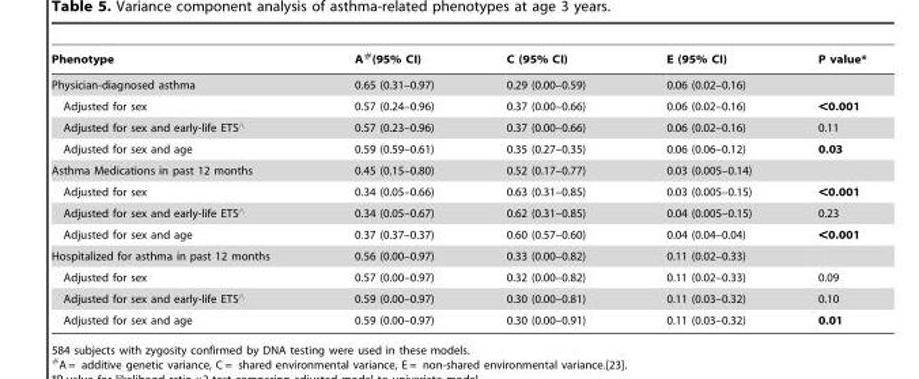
<table><thead><tr><td>Phenotype</td><td>A#(95% CI)</td><td>C (95% CI)</td><td>E (95% CI)</td><td>P value*</td></tr></thead><tbody><tr><td>Physician-diagnosed asthma</td><td>0.65 (0.31–0.97)</td><td>0.29 (0.00–0.59)</td><td>0.06 (0.02–0.16)</td><td></td></tr><tr><td>Adjusted for sex</td><td>0.57 (0.24–0.96)</td><td>0.37 (0.00–0.66)</td><td>0.06 (0.02–0.16)</td><td>&lt;0.001</td></tr><tr><td>Adjusted for sex and early-life ETS‘</td><td>0.57 (0.23–0.96)</td><td>0.37 (0.00–0.66)</td><td>0.06 (0.02–0.16)</td><td>0.11</td></tr><tr><td>Adjusted for sex and age</td><td>0.59 (0.59–0.61)</td><td>0.35 (0.27–0.35)</td><td>0.06 (0.06–0.12)</td><td>0.03</td></tr><tr><td>Asthma Medications in past 12 months</td><td>0.45 (0.15–0.80)</td><td>0.52 (0.17–0.77)</td><td>0.03 (0.005–0.14)</td><td></td></tr><tr><td>Adjusted for sex</td><td>0.34 (0.05–0.66)</td><td>0.63 (0.31–0.85)</td><td>0.03 (0.005–0.15)</td><td>&lt;0.001</td></tr><tr><td>Adjusted for sex and early-life ETS‘</td><td>0.34 (0.05–0.67)</td><td>0.62 (0.31–0.85)</td><td>0.04 (0.005–0.15)</td><td>0.23</td></tr><tr><td>Adjusted for sex and age</td><td>0.37 (0.37–0.37)</td><td>0.60 (0.57–0.60)</td><td>0.04 (0.04–0.04)</td><td>&lt;0.001</td></tr><tr><td>Hospitalized for asthma in past 12 months</td><td>0.56 (0.00–0.97)</td><td>0.33 (0.00–0.82)</td><td>0.11 (0.02–0.33)</td><td></td></tr><tr><td>Adjusted for sex</td><td>0.57 (0.00–0.97)</td><td>0.32 (0.00–0.82)</td><td>0.11 (0.02–0.33)</td><td>0.09</td></tr><tr><td>Adjusted for sex and early-life ETS‘</td><td>0.59 (0.00–0.97)</td><td>0.30 (0.00–0.81)</td><td>0.11 (0.03–0.32)</td><td>0.10</td></tr><tr><td>Adjusted for sex and age</td><td>0.59 (0.00–0.97)</td><td>0.30 (0.00–0.91)</td><td>0.11 (0.03–0.32)</td><td>0.01</td></tr></tbody></table>